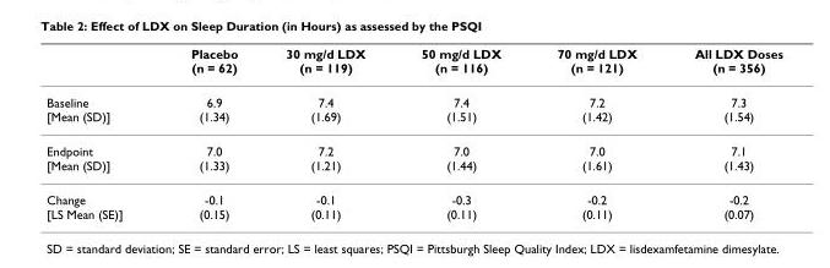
<table><thead><tr><td></td><td>Placebo (n = 62)</td><td>30 mg/d LDX (n = 119)</td><td>50 mg/d LDX (n = 116)</td><td>70 mg/d LDX (n = 121)</td><td>All LDX Doses (n = 356)</td></tr></thead><tbody><tr><td>Baseline [Mean (SD)]</td><td>6.9 (1.34)</td><td>7.4 (1.69)</td><td>7.4 (1.51)</td><td>7.2 (1.42)</td><td>7.3 (1.54)</td></tr><tr><td>Endpoint [Mean (SD)]</td><td>7.0 (1.33)</td><td>7.2 (1.21)</td><td>7.0 (1.44)</td><td>7.0 (1.61)</td><td>7.1 (1.43)</td></tr><tr><td>Change [LS Mean (SE)]</td><td>-0.1 (0.15)</td><td>-0.1 (0.11)</td><td>-0.3 (0.11)</td><td>-0.2 (0.11)</td><td>-0.2 (0.07)</td></tr></tbody></table>